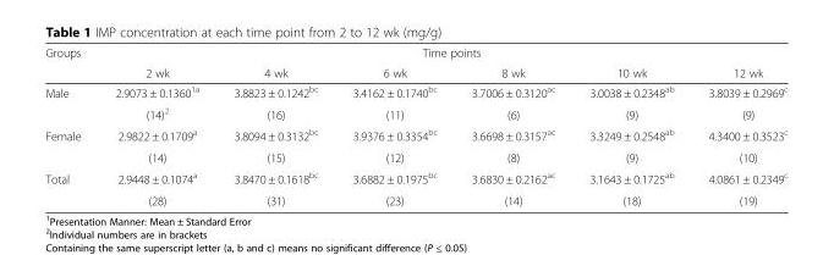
<table><thead><tr><td rowspan="2">Groups</td><td colspan="6">Time points</td></tr><tr><td>2 wk</td><td>4 wk</td><td>6 wk</td><td>8 wk</td><td>10 wk</td><td>12 wk</td></tr></thead><tbody><tr><td rowspan="2">Male</td><td>2.9073 ± 0.1360<sup>1a</sup></td><td>3.8823 ± 0.1242<sup>bc</sup></td><td>3.4162 ± 0.1740<sup>bc</sup></td><td>3.7006 ± 0.3120<sup>ac</sup></td><td>3.0038 ± 0.2348<sup>ab</sup></td><td>3.8039 ± 0.2969<sup>c</sup></td></tr><tr><td>(14)<sup>2</sup></td><td>(16)</td><td>(11)</td><td>(6)</td><td>(9)</td><td>(9)</td></tr><tr><td rowspan="2">Female</td><td>2.9822 ± 0.1709<sup>a</sup></td><td>3.8094 ± 0.3132<sup>bc</sup></td><td>3.9376 ± 0.3354<sup>bc</sup></td><td>3.6698 ± 0.3157<sup>ac</sup></td><td>3.3249 ± 0.2548<sup>ab</sup></td><td>4.3400 ± 0.3523<sup>c</sup></td></tr><tr><td>(14)</td><td>(15)</td><td>(12)</td><td>(8)</td><td>(9)</td><td>(10)</td></tr><tr><td rowspan="2">Total</td><td>2.9448 ± 0.1074<sup>a</sup></td><td>3.8470 ± 0.1618<sup>bc</sup></td><td>3.6882 ± 0.1975<sup>bc</sup></td><td>3.6830 ± 0.2162<sup>ac</sup></td><td>3.1643 ± 0.1725<sup>ab</sup></td><td>4.0861 ± 0.2349<sup>c</sup></td></tr><tr><td>(28)</td><td>(31)</td><td>(23)</td><td>(14)</td><td>(18)</td><td>(19)</td></tr></tbody></table>